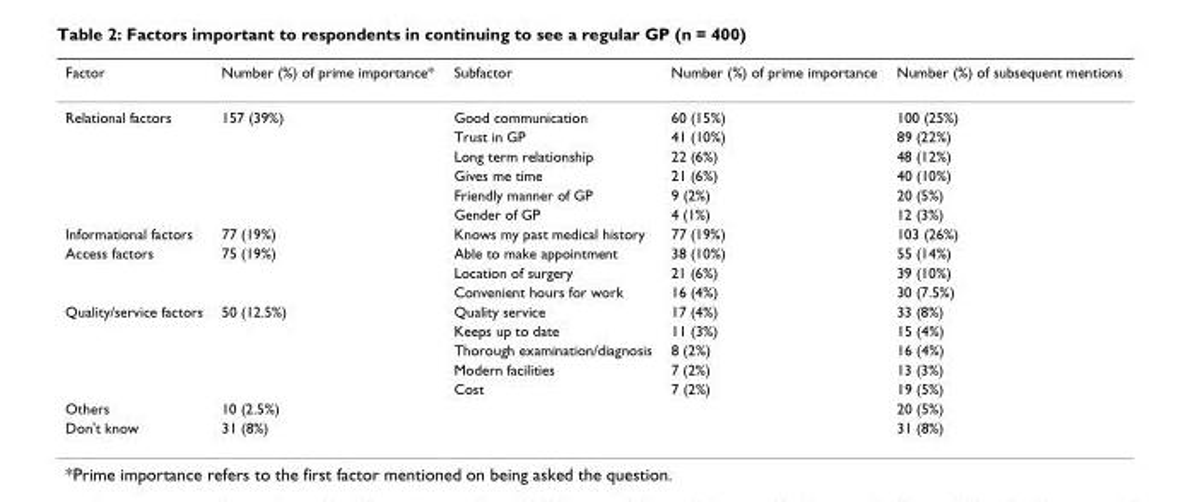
<table><thead><tr><td>Factor</td><td>Number (%) of prime importance*</td><td>Subfactor</td><td>Number (%) of prime importance</td><td>Number (%) of subsequent mentions</td></tr></thead><tbody><tr><td rowspan="6">Relational factors</td><td>157 (39%)</td><td>Good communication</td><td>60 (15%)</td><td>100 (25%)</td></tr><tr><td></td><td>Trust in GP</td><td>41 (10%)</td><td>89 (22%)</td></tr><tr><td></td><td>Long term relationship</td><td>22 (6%)</td><td>48 (12%)</td></tr><tr><td></td><td>Gives me time</td><td>21 (6%)</td><td>40 (10%)</td></tr><tr><td></td><td>Friendly manner of GP</td><td>9 (2%)</td><td>20 (5%)</td></tr><tr><td></td><td>Gender of GP</td><td>4 (1%)</td><td>12 (3%)</td></tr><tr><td>Informational factors</td><td>77 (19%)</td><td>Knows my past medical history</td><td>77 (19%)</td><td>103 (26%)</td></tr><tr><td rowspan="3">Access factors</td><td>75 (19%)</td><td>Able to make appointment</td><td>38 (10%)</td><td>55 (14%)</td></tr><tr><td></td><td>Location of surgery</td><td>21 (6%)</td><td>39 (10%)</td></tr><tr><td></td><td>Convenient hours for work</td><td>16 (4%)</td><td>30 (7.5%)</td></tr><tr><td rowspan="5">Quality/service factors</td><td>50 (12.5%)</td><td>Quality service</td><td>17 (4%)</td><td>33 (8%)</td></tr><tr><td></td><td>Keeps up to date</td><td>11 (3%)</td><td>15 (4%)</td></tr><tr><td></td><td>Thorough examination/diagnosis</td><td>8 (2%)</td><td>16 (4%)</td></tr><tr><td></td><td>Modern facilities</td><td>7 (2%)</td><td>13 (3%)</td></tr><tr><td></td><td>Cost</td><td>7 (2%)</td><td>19 (5%)</td></tr><tr><td>Others</td><td>10 (2.5%)</td><td></td><td></td><td>20 (5%)</td></tr><tr><td>Don&#x27;t know</td><td>31 (8%)</td><td></td><td></td><td>31 (8%)</td></tr></tbody></table>